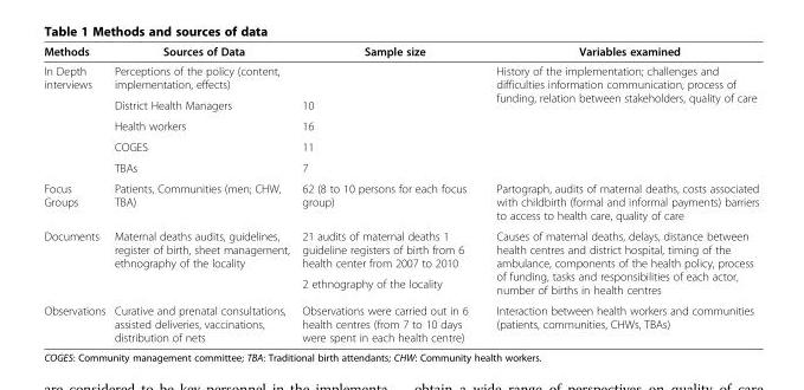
<table><thead><tr><td>Methods</td><td>Sources of Data</td><td>Sample size</td><td>Variables examined</td></tr></thead><tbody><tr><td rowspan="5">In Depth interviews</td><td>Perceptions of the policy (content, implementation, effects)</td><td></td><td rowspan="4">History of the implementation; challenges and difficulties information communication, process of funding, relation between stakeholders, quality of care</td></tr><tr><td>District Health Managers</td><td>10</td></tr><tr><td>Health workers</td><td>16</td></tr><tr><td>COGES</td><td>11</td></tr><tr><td>TBAs</td><td>7</td><td></td></tr><tr><td>Focus Groups</td><td>Patients, Communities (men; CHW, TBA)</td><td>62 (8 to 10 persons for each focus group)</td><td>Partograph, audits of maternal deaths, costs associated with childbirth (formal and informal payments) barriers to access to health care, quality of care</td></tr><tr><td rowspan="2">Documents</td><td rowspan="2">Maternal deaths audits, guidelines, register of birth, sheet management, ethnography of the locality</td><td>21 audits of maternal deaths 1 guideline registers of birth from 6 health center from 2007 to 2010</td><td rowspan="2">Causes of maternal deaths, delays, distance between health centres and district hospital, timing of the ambulance, components of the health policy, process of funding, tasks and responsibilities of each actor, number of births in health centres</td></tr><tr><td>2 ethnography of the locality</td></tr><tr><td>Observations</td><td>Curative and prenatal consultations, assisted deliveries, vaccinations, distribution of nets</td><td>Observations were carried out in 6 health centres (from 7 to 10 days were spent in each health centre)</td><td>Interaction between health workers and communities (patients, communities, CHWs, TBAs)</td></tr></tbody></table>